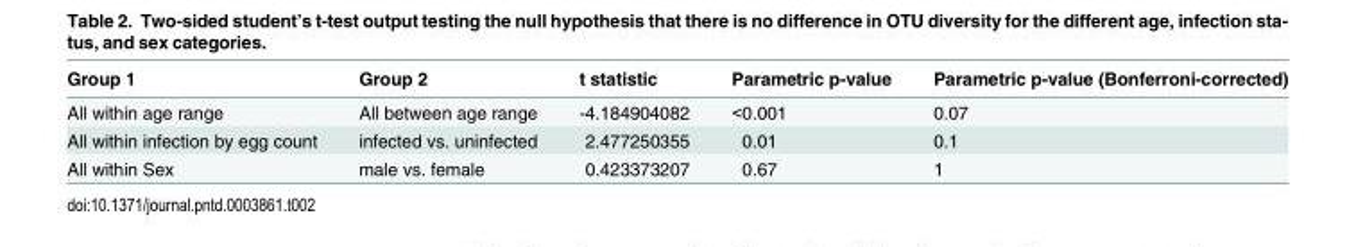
<table><thead><tr><td>Group 1</td><td>Group 2</td><td>t statistic</td><td>Parametric p-value</td><td>Parametric p-value (Bonferroni-corrected)</td></tr></thead><tbody><tr><td>All within age range</td><td>All between age range</td><td>-4.184904082</td><td>&lt;0.001</td><td>0.07</td></tr><tr><td>All within infection by egg count</td><td>infected vs. uninfected</td><td>2.477250355</td><td>0.01</td><td>0.1</td></tr><tr><td>All within Sex</td><td>male vs. female</td><td>0.423373207</td><td>0.67</td><td>1</td></tr></tbody></table>